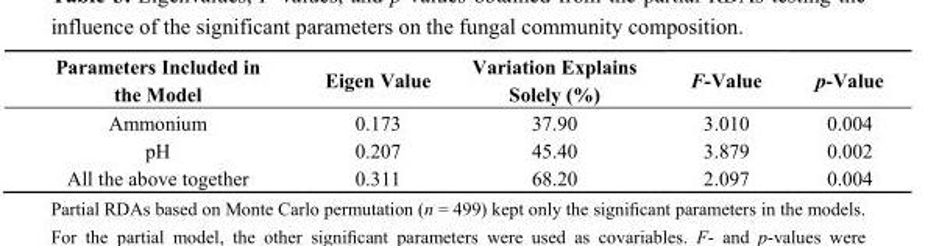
<table><thead><tr><td>Parameters Included in the Model</td><td>Eigen Value</td><td>Variation Explains Solely (%)</td><td>F-Value</td><td>p-Value</td></tr></thead><tbody><tr><td>Ammonium</td><td>0.173</td><td>37.90</td><td>3.010</td><td>0.004</td></tr><tr><td>pH</td><td>0.207</td><td>45.40</td><td>3.879</td><td>0.002</td></tr><tr><td>All the above together</td><td>0.311</td><td>68.20</td><td>2.097</td><td>0.004</td></tr></tbody></table>